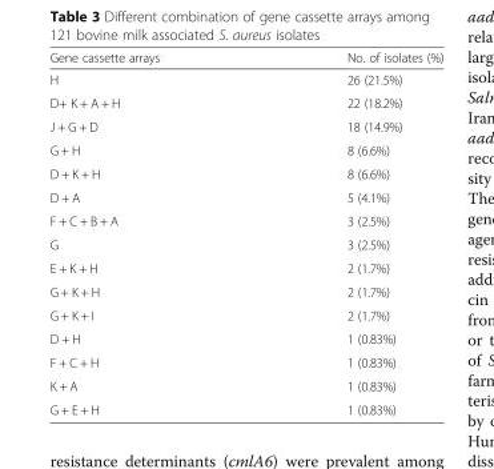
<table><thead><tr><td>Gene cassette arrays</td><td>No. of isolates (%)</td></tr></thead><tbody><tr><td>H</td><td>26 (21.5%)</td></tr><tr><td>D+ K + A + H</td><td>22 (18.2%)</td></tr><tr><td>J + G + D</td><td>18 (14.9%)</td></tr><tr><td>G + H</td><td>8 (6.6%)</td></tr><tr><td>D + K + H</td><td>8 (6.6%)</td></tr><tr><td>D + A</td><td>5 (4.1%)</td></tr><tr><td>F + C + B + A</td><td>3 (2.5%)</td></tr><tr><td>G</td><td>3 (2.5%)</td></tr><tr><td>E + K + H</td><td>2 (1.7%)</td></tr><tr><td>G + K + H</td><td>2 (1.7%)</td></tr><tr><td>G + K + I</td><td>2 (1.7%)</td></tr><tr><td>D + H</td><td>1 (0.83%)</td></tr><tr><td>F + C + H</td><td>1 (0.83%)</td></tr><tr><td>K + A</td><td>1 (0.83%)</td></tr><tr><td>G + E + H</td><td>1 (0.83%)</td></tr></tbody></table>